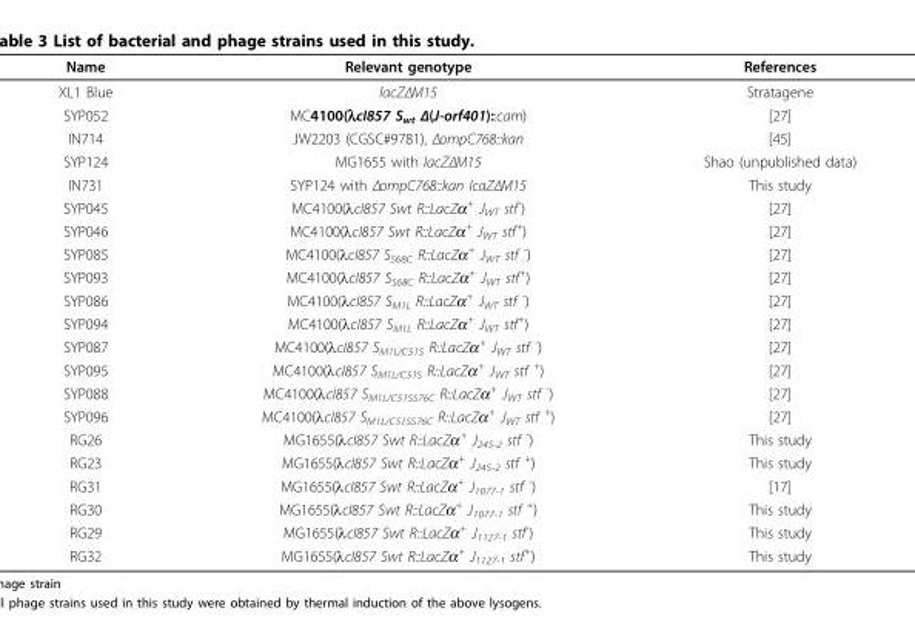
<table><thead><tr><td>Name</td><td>Relevant genotype</td><td>References</td></tr></thead><tbody><tr><td>XL1 Blue</td><td>lacZΔM15</td><td>Stratagene</td></tr><tr><td>SYP052</td><td>MC4100(λcI857 S<sub>wt</sub> Δ(J-orf401)::cam)</td><td>[27]</td></tr><tr><td>IN714</td><td>JW2203 (CGSC#9781), ΔompC768::kan</td><td>[45]</td></tr><tr><td>SYP124</td><td>MG1655 with lacZΔM15</td><td>Shao (unpublished data)</td></tr><tr><td>IN731</td><td>SYP124 with ΔompC768::kan lcaZΔM15</td><td>This study</td></tr><tr><td>SYP045</td><td>MC4100(λcI857 Swt R::LacZα<sup>+</sup> J<sub>WT</sub> stf<sup>-</sup>)</td><td>[27]</td></tr><tr><td>SYP046</td><td>MC4100(λcI857 Swt R::LacZα<sup>+</sup> J<sub>WT</sub> stf<sup>+</sup>)</td><td>[27]</td></tr><tr><td>SYP085</td><td>MC4100(λcI857 S<sub>S68C</sub> R::LacZα<sup>+</sup> J<sub>WT</sub> stf <sup>-</sup>)</td><td>[27]</td></tr><tr><td>SYP093</td><td>MC4100(λcI857 S<sub>S68C</sub> R::LacZα<sup>+</sup> J<sub>WT</sub> stf<sup>+</sup>)</td><td>[27]</td></tr><tr><td>SYP086</td><td>MC4100(λcI857 S<sub>M1L</sub> R::LacZα<sup>+</sup> J<sub>WT</sub> stf <sup>-</sup>)</td><td>[27]</td></tr><tr><td>SYP094</td><td>MC4100(λcI857 S<sub>M1L</sub> R::LacZα<sup>+</sup> J<sub>WT</sub> stf<sup>+</sup>)</td><td>[27]</td></tr><tr><td>SYP087</td><td>MC4100(λcI857 S<sub>M1L/C51S</sub> R::LacZα<sup>+</sup> J<sub>WT</sub> stf <sup>-</sup>)</td><td>[27]</td></tr><tr><td>SYP095</td><td>MC4100(λcI857 S<sub>M1L/C51S</sub> R::LacZα<sup>+</sup> J<sub>WT</sub> stf <sup>+</sup>)</td><td>[27]</td></tr><tr><td>SYP088</td><td>MC4100(λcI857 S<sub>M1L/C51SS76C</sub> R::LacZα<sup>+</sup> J<sub>WT</sub> stf <sup>-</sup>)</td><td>[27]</td></tr><tr><td>SYP096</td><td>MC4100(λcI857 S<sub>M1L/C51SS76C</sub> R::LacZα<sup>+</sup> J<sub>WT</sub> stf <sup>+</sup>)</td><td>[27]</td></tr><tr><td>RG26</td><td>MG1655(λcI857 Swt R::LacZα<sup>+</sup> J<sub>245-2</sub> stf <sup>-</sup>)</td><td>This study</td></tr><tr><td>RG23</td><td>MG1655(λcI857 Swt R::LacZα<sup>+</sup> J<sub>245-2</sub> stf <sup>+</sup>)</td><td>This study</td></tr><tr><td>RG31</td><td>MG1655(λcI857 Swt R::LacZα<sup>+</sup> J<sub>1077-1</sub> stf <sup>-</sup>)</td><td>[17]</td></tr><tr><td>RG30</td><td>MG1655(λcI857 Swt R::LacZα<sup>+</sup> J<sub>1077-1</sub> stf <sup>+</sup>)</td><td>This study</td></tr><tr><td>RG29</td><td>MG1655(λcI857 Swt R::LacZα<sup>+</sup> J<sub>1127-1</sub> stf<sup>-</sup>)</td><td>This study</td></tr><tr><td>RG32</td><td>MG1655(λcI857 Swt R::LacZα<sup>+</sup> J<sub>1127-1</sub> stf<sup>+</sup>)</td><td>This study</td></tr></tbody></table>